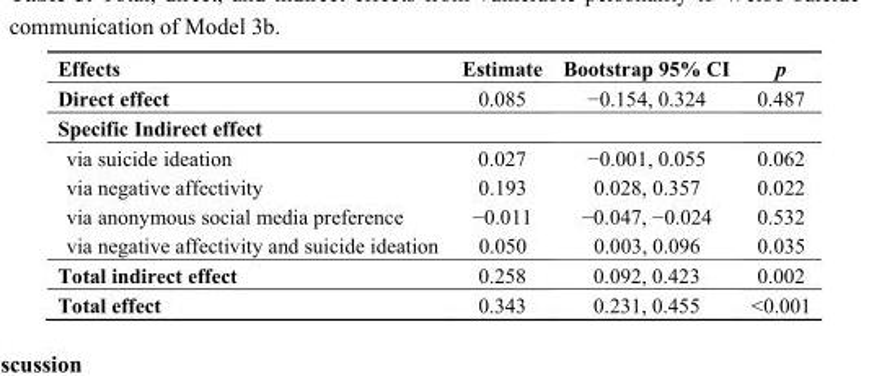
<table><thead><tr><td>Effects</td><td>Estimate</td><td>Bootstrap 95% CI</td><td>p</td></tr></thead><tbody><tr><td>Direct effect</td><td>0.085</td><td>−0.154, 0.324</td><td>0.487</td></tr><tr><td colspan="4">Specific Indirect effect</td></tr><tr><td>via suicide ideation</td><td>0.027</td><td>−0.001, 0.055</td><td>0.062</td></tr><tr><td>via negative affectivity</td><td>0.193</td><td>0.028, 0.357</td><td>0.022</td></tr><tr><td>via anonymous social media preference</td><td>−0.011</td><td>−0.047, −0.024</td><td>0.532</td></tr><tr><td>via negative affectivity and suicide ideation</td><td>0.050</td><td>0.003, 0.096</td><td>0.035</td></tr><tr><td>Total indirect effect</td><td>0.258</td><td>0.092, 0.423</td><td>0.002</td></tr><tr><td>Total effect</td><td>0.343</td><td>0.231, 0.455</td><td>&lt;0.001</td></tr></tbody></table>